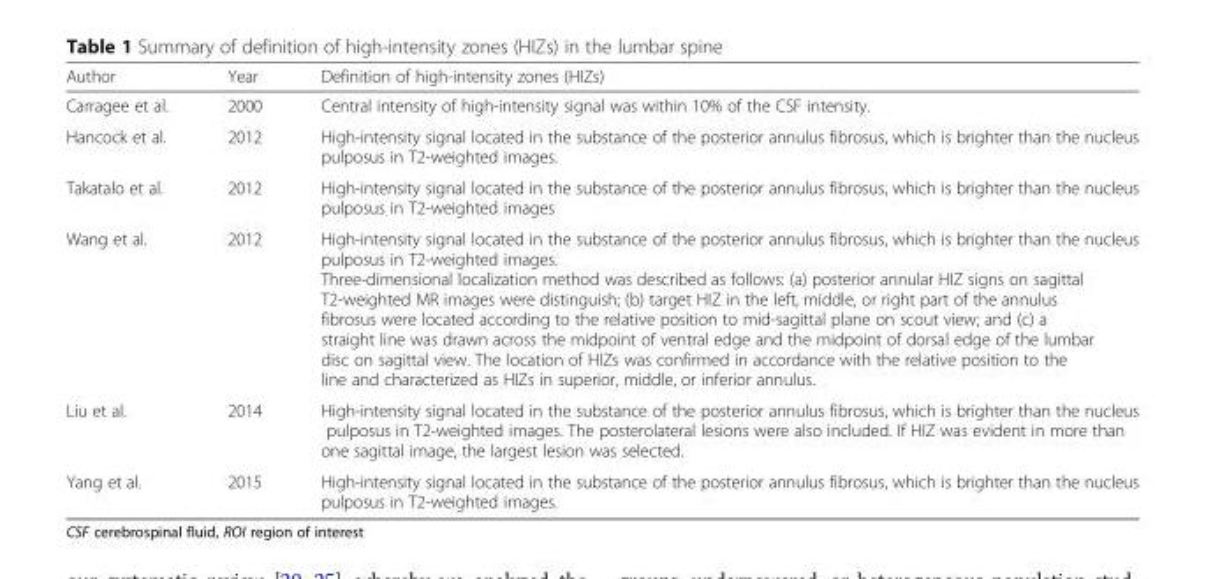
<table><thead><tr><td>Author</td><td>Year</td><td>Definition of high-intensity zones (HIZs)</td></tr></thead><tbody><tr><td>Carragee et al.</td><td>2000</td><td>Central intensity of high-intensity signal was within 10% of the CSF intensity.</td></tr><tr><td>Hancock et al.</td><td>2012</td><td>High-intensity signal located in the substance of the posterior annulus fibrosus, which is brighter than the nucleus pulposus in T2-weighted images.</td></tr><tr><td>Takatalo et al.</td><td>2012</td><td>High-intensity signal located in the substance of the posterior annulus fibrosus, which is brighter than the nucleus pulposus in T2-weighted images</td></tr><tr><td>Wang et al.</td><td>2012</td><td>High-intensity signal located in the substance of the posterior annulus fibrosus, which is brighter than the nucleus pulposus in T2-weighted images. Three-dimensional localization method was described as follows: (a) posterior annular HIZ signs on sagittal T2-weighted MR images were distinguish; (b) target HIZ in the left, middle, or right part of the annulus fibrosus were located according to the relative position to mid-sagittal plane on scout view; and (c) a straight line was drawn across the midpoint of ventral edge and the midpoint of dorsal edge of the lumbar disc on sagittal view. The location of HIZs was confirmed in accordance with the relative position to the line and characterized as HIZs in superior, middle, or inferior annulus.</td></tr><tr><td>Liu et al.</td><td>2014</td><td>High-intensity signal located in the substance of the posterior annulus fibrosus, which is brighter than the nucleus pulposus in T2-weighted images. The posterolateral lesions were also included. If HIZ was evident in more than one sagittal image, the largest lesion was selected.</td></tr><tr><td>Yang et al.</td><td>2015</td><td>High-intensity signal located in the substance of the posterior annulus fibrosus, which is brighter than the nucleus pulposus in T2-weighted images.</td></tr></tbody></table>